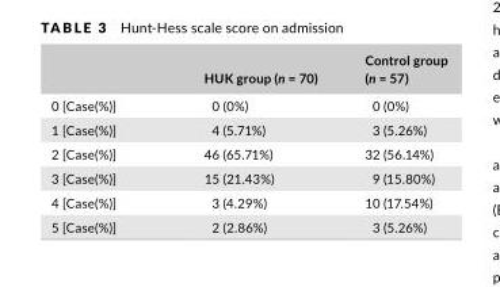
<table><thead><tr><td></td><td>HUK group (n = 70)</td><td>Control group (n = 57)</td></tr></thead><tbody><tr><td>0 [Case(%)]</td><td>0 (0%)</td><td>0 (0%)</td></tr><tr><td>1 [Case(%)]</td><td>4 (5.71%)</td><td>3 (5.26%)</td></tr><tr><td>2 [Case(%)]</td><td>46 (65.71%)</td><td>32 (56.14%)</td></tr><tr><td>3 [Case(%)]</td><td>15 (21.43%)</td><td>9 (15.80%)</td></tr><tr><td>4 [Case(%)]</td><td>3 (4.29%)</td><td>10 (17.54%)</td></tr><tr><td>5 [Case(%)]</td><td>2 (2.86%)</td><td>3 (5.26%)</td></tr></tbody></table>